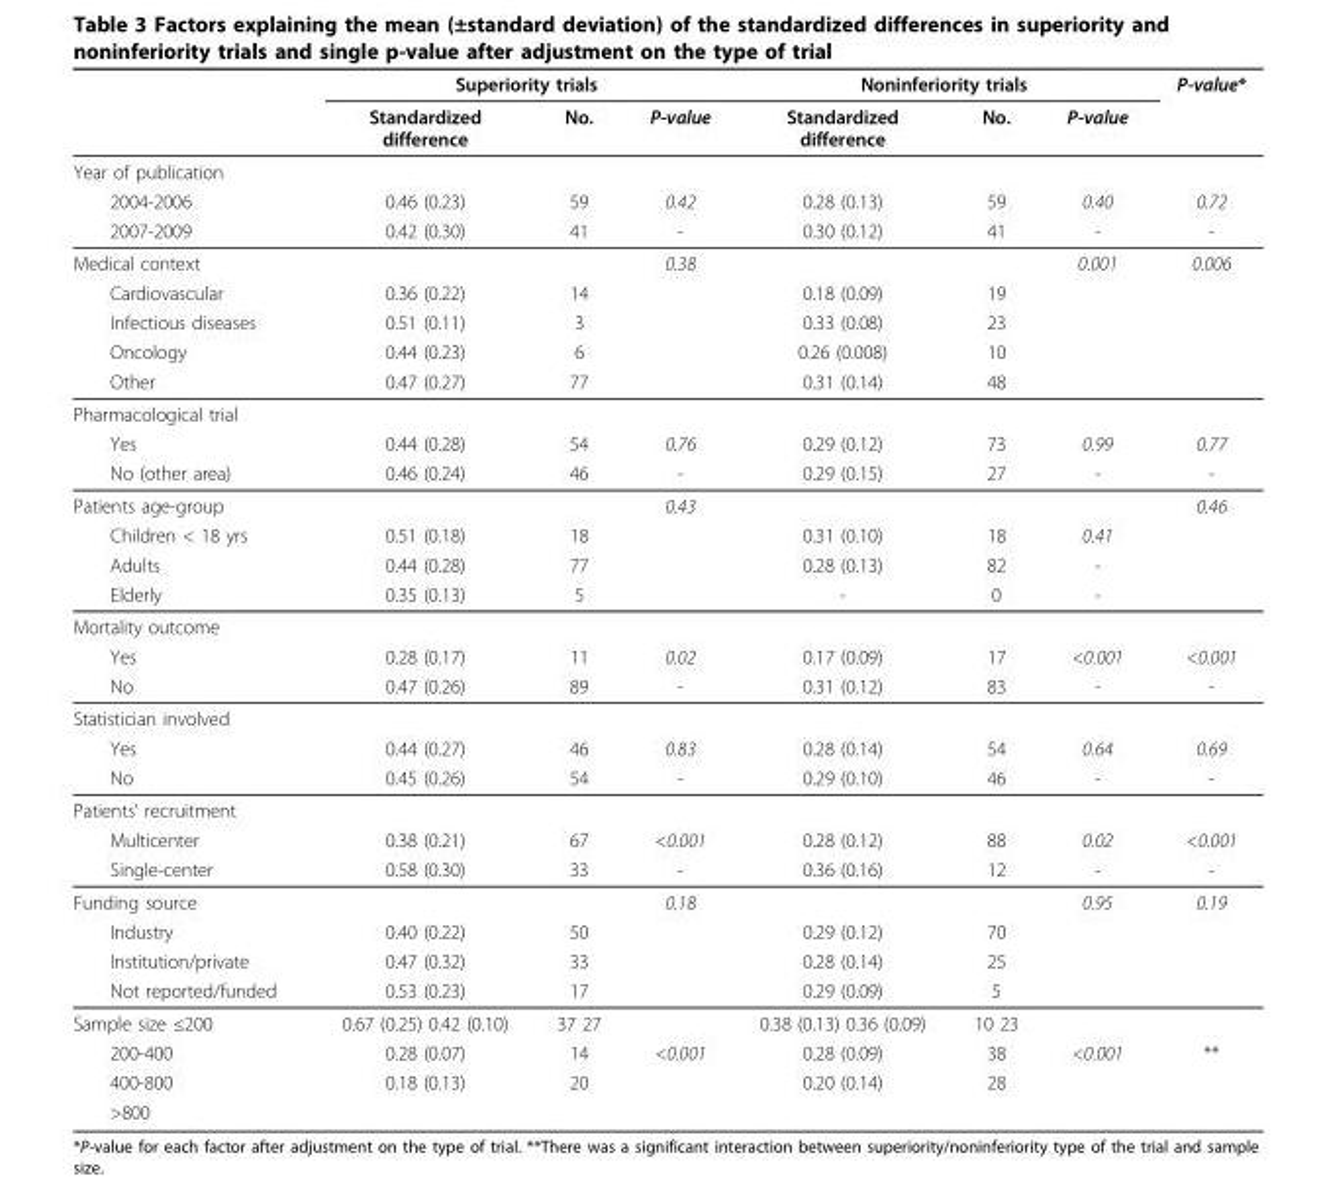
<table><thead><tr><td rowspan="2"></td><td colspan="3">Superiority trials</td><td colspan="3">Noninferiority trials</td><td rowspan="2">P-value*</td></tr><tr><td>Standardized difference</td><td>No.</td><td>P-value</td><td>Standardized difference</td><td>No.</td><td>P-value</td></tr></thead><tbody><tr><td colspan="8">Year of publication</td></tr><tr><td>2004-2006</td><td>0.46 (0.23)</td><td>59</td><td>0.42</td><td>0.28 (0.13)</td><td>59</td><td>0.40</td><td>0.72</td></tr><tr><td>2007-2009</td><td>0.42 (0.30)</td><td>41</td><td>-</td><td>0.30 (0.12)</td><td>41</td><td>-</td><td>-</td></tr><tr><td>Medical context</td><td></td><td></td><td>0.38</td><td></td><td></td><td>0.001</td><td>0.006</td></tr><tr><td>Cardiovascular</td><td>0.36 (0.22)</td><td>14</td><td></td><td>0.18 (0.09)</td><td>19</td><td></td><td></td></tr><tr><td>Infectious diseases</td><td>0.51 (0.11)</td><td>3</td><td></td><td>0.33 (0.08)</td><td>23</td><td></td><td></td></tr><tr><td>Oncology</td><td>0.44 (0.23)</td><td>6</td><td></td><td>0.26 (0.008)</td><td>10</td><td></td><td></td></tr><tr><td>Other</td><td>0.47 (0.27)</td><td>77</td><td></td><td>0.31 (0.14)</td><td>48</td><td></td><td></td></tr><tr><td colspan="8">Pharmacological trial</td></tr><tr><td>Yes</td><td>0.44 (0.28)</td><td>54</td><td>0.76</td><td>0.29 (0.12)</td><td>73</td><td>0.99</td><td>0.77</td></tr><tr><td>No (other area)</td><td>0.46 (0.24)</td><td>46</td><td>-</td><td>0.29 (0.15)</td><td>27</td><td>-</td><td>-</td></tr><tr><td>Patients age-group</td><td></td><td></td><td>0.43</td><td></td><td></td><td></td><td>0.46</td></tr><tr><td>Children &lt; 18 yrs</td><td>0.51 (0.18)</td><td>18</td><td></td><td>0.31 (0.10)</td><td>18</td><td>0.41</td><td></td></tr><tr><td>Adults</td><td>0.44 (0.28)</td><td>77</td><td></td><td>0.28 (0.13)</td><td>82</td><td>-</td><td></td></tr><tr><td>Elderly</td><td>0.35 (0.13)</td><td>5</td><td></td><td>-</td><td>0</td><td>-</td><td></td></tr><tr><td colspan="8">Mortality outcome</td></tr><tr><td>Yes</td><td>0.28 (0.17)</td><td>11</td><td>0.02</td><td>0.17 (0.09)</td><td>17</td><td>&lt;0.001</td><td>&lt;0.001</td></tr><tr><td>No</td><td>0.47 (0.26)</td><td>89</td><td>-</td><td>0.31 (0.12)</td><td>83</td><td>-</td><td>-</td></tr><tr><td colspan="8">Statistician involved</td></tr><tr><td>Yes</td><td>0.44 (0.27)</td><td>46</td><td>0.83</td><td>0.28 (0.14)</td><td>54</td><td>0.64</td><td>0.69</td></tr><tr><td>No</td><td>0.45 (0.26)</td><td>54</td><td>-</td><td>0.29 (0.10)</td><td>46</td><td>-</td><td>-</td></tr><tr><td colspan="8">Patients’ recruitment</td></tr><tr><td>Multicenter</td><td>0.38 (0.21)</td><td>67</td><td>&lt;0.001</td><td>0.28 (0.12)</td><td>88</td><td>0.02</td><td>&lt;0.001</td></tr><tr><td>Single-center</td><td>0.58 (0.30)</td><td>33</td><td>-</td><td>0.36 (0.16)</td><td>12</td><td>-</td><td>-</td></tr><tr><td>Funding source</td><td></td><td></td><td>0.18</td><td></td><td></td><td>0.95</td><td>0.19</td></tr><tr><td>Industry</td><td>0.40 (0.22)</td><td>50</td><td></td><td>0.29 (0.12)</td><td>70</td><td></td><td></td></tr><tr><td>Institution/private</td><td>0.47 (0.32)</td><td>33</td><td></td><td>0.28 (0.14)</td><td>25</td><td></td><td></td></tr><tr><td>Not reported/funded</td><td>0.53 (0.23)</td><td>17</td><td></td><td>0.29 (0.09)</td><td>5</td><td></td><td></td></tr><tr><td>Sample size ≤200</td><td>0.67 (0.25) 0.42 (0.10)</td><td>37 27</td><td></td><td>0.38 (0.13) 0.36 (0.09)</td><td>10 23</td><td></td><td></td></tr><tr><td>200-400</td><td>0.28 (0.07)</td><td>14</td><td>&lt;0.001</td><td>0.28 (0.09)</td><td>38</td><td>&lt;0.001</td><td>**</td></tr><tr><td>400-800</td><td>0.18 (0.13)</td><td>20</td><td></td><td>0.20 (0.14)</td><td>28</td><td></td><td></td></tr><tr><td>&gt;800</td><td></td><td></td><td></td><td></td><td></td><td></td><td></td></tr></tbody></table>